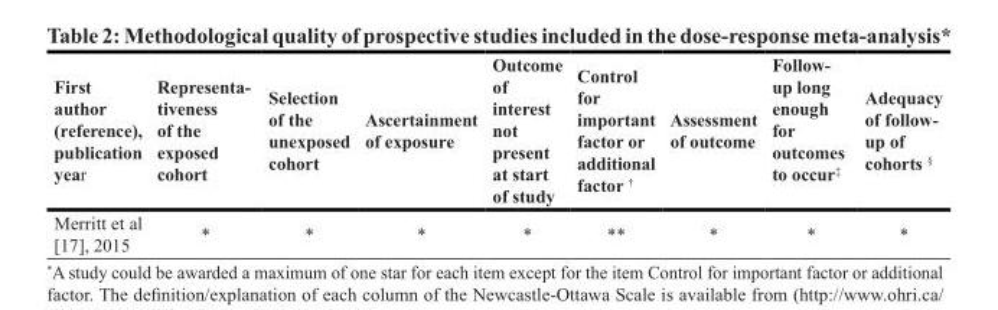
<table><thead><tr><td>First author (reference), publication year</td><td>Representa- tiveness of the exposed cohort</td><td>Selection of the unexposed cohort</td><td>Ascertainment of exposure</td><td>Outcome of interest not present at start of study</td><td>Control for important factor or additional factor <sup>†</sup></td><td>Assessment of outcome</td><td>Follow- up long enough for outcomes to occur<sup>‡</sup></td><td>Adequacy of follow- up of cohorts <sup>§</sup></td></tr></thead><tbody><tr><td>Merritt et al [17], 2015</td><td>*</td><td>*</td><td>*</td><td>*</td><td>**</td><td>*</td><td>*</td><td>*</td></tr></tbody></table>